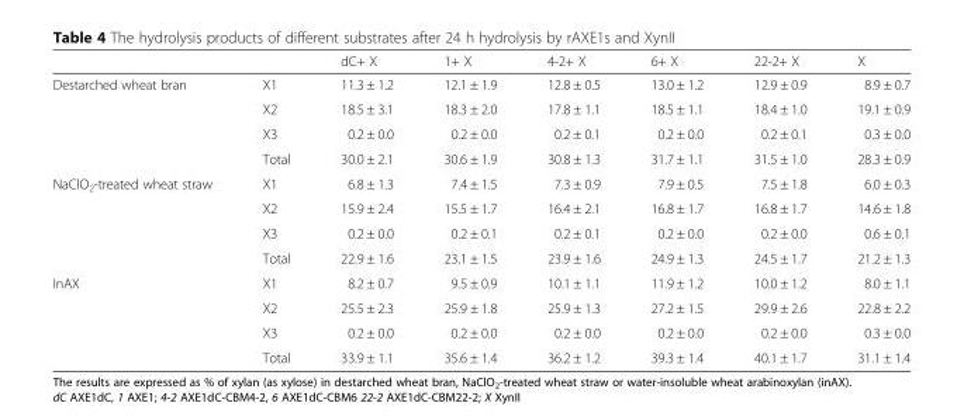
<table><thead><tr><td></td><td></td><td>dC+ X</td><td>1+ X</td><td>4-2+ X</td><td>6+ X</td><td>22-2+ X</td><td>X</td></tr></thead><tbody><tr><td rowspan="4">Destarched wheat bran</td><td>X1</td><td>11.3 ± 1.2</td><td>12.1 ± 1.9</td><td>12.8 ± 0.5</td><td>13.0 ± 1.2</td><td>12.9 ± 0.9</td><td>8.9 ± 0.7</td></tr><tr><td>X2</td><td>18.5 ± 3.1</td><td>18.3 ± 2.0</td><td>17.8 ± 1.1</td><td>18.5 ± 1.1</td><td>18.4 ± 1.0</td><td>19.1 ± 0.9</td></tr><tr><td>X3</td><td>0.2 ± 0.0</td><td>0.2 ± 0.0</td><td>0.2 ± 0.1</td><td>0.2 ± 0.0</td><td>0.2 ± 0.1</td><td>0.3 ± 0.0</td></tr><tr><td>Total</td><td>30.0 ± 2.1</td><td>30.6 ± 1.9</td><td>30.8 ± 1.3</td><td>31.7 ± 1.1</td><td>31.5 ± 1.0</td><td>28.3 ± 0.9</td></tr><tr><td rowspan="4">NaClO<sub>2</sub>-treated wheat straw</td><td>X1</td><td>6.8 ± 1.3</td><td>7.4 ± 1.5</td><td>7.3 ± 0.9</td><td>7.9 ± 0.5</td><td>7.5 ± 1.8</td><td>6.0 ± 0.3</td></tr><tr><td>X2</td><td>15.9 ± 2.4</td><td>15.5 ± 1.7</td><td>16.4 ± 2.1</td><td>16.8 ± 1.7</td><td>16.8 ± 1.7</td><td>14.6 ± 1.8</td></tr><tr><td>X3</td><td>0.2 ± 0.0</td><td>0.2 ± 0.1</td><td>0.2 ± 0.1</td><td>0.2 ± 0.0</td><td>0.2 ± 0.0</td><td>0.6 ± 0.1</td></tr><tr><td>Total</td><td>22.9 ± 1.6</td><td>23.1 ± 1.5</td><td>23.9 ± 1.6</td><td>24.9 ± 1.3</td><td>24.5 ± 1.7</td><td>21.2 ± 1.3</td></tr><tr><td rowspan="4">InAX</td><td>X1</td><td>8.2 ± 0.7</td><td>9.5 ± 0.9</td><td>10.1 ± 1.1</td><td>11.9 ± 1.2</td><td>10.0 ± 1.2</td><td>8.0 ± 1.1</td></tr><tr><td>X2</td><td>25.5 ± 2.3</td><td>25.9 ± 1.8</td><td>25.9 ± 1.3</td><td>27.2 ± 1.5</td><td>29.9 ± 2.6</td><td>22.8 ± 2.2</td></tr><tr><td>X3</td><td>0.2 ± 0.0</td><td>0.2 ± 0.0</td><td>0.2 ± 0.0</td><td>0.2 ± 0.0</td><td>0.2 ± 0.0</td><td>0.3 ± 0.0</td></tr><tr><td>Total</td><td>33.9 ± 1.1</td><td>35.6 ± 1.4</td><td>36.2 ± 1.2</td><td>39.3 ± 1.4</td><td>40.1 ± 1.7</td><td>31.1 ± 1.4</td></tr></tbody></table>